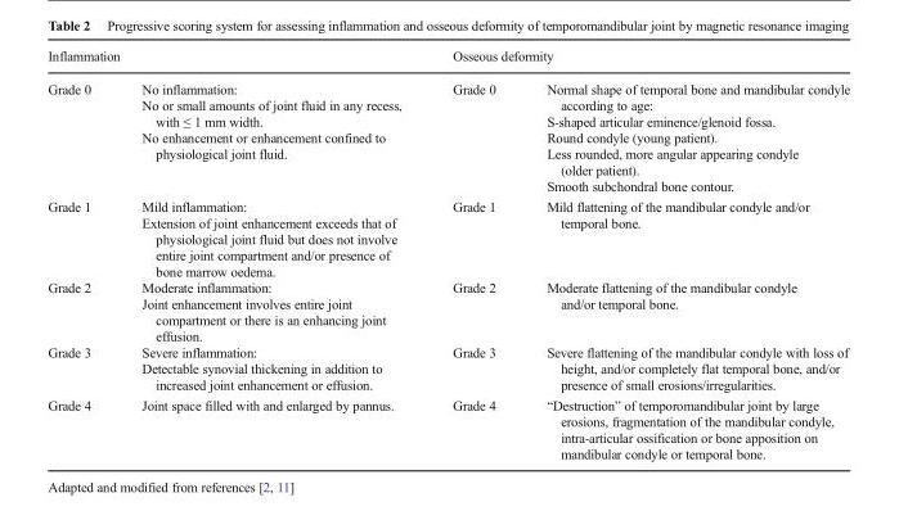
<table><thead><tr><td colspan="2">Inflammation</td><td colspan="2">Osseous deformity</td></tr><tr><td>Grade 0</td><td>No inflammation: No or small amounts of joint fluid in any recess, with ≤ 1 mm width. No enhancement or enhancement confined to physiological joint fluid.</td><td>Grade 0</td><td>Normal shape of temporal bone and mandibular condyle according to age: S-shaped articular eminence/glenoid fossa. Round condyle (young patient). Less rounded, more angular appearing condyle (older patient). Smooth subchondral bone contour.</td></tr></thead><tbody><tr><td>Grade 1</td><td>Mild inflammation: Extension of joint enhancement exceeds that of physiological joint fluid but does not involve entire joint compartment and/or presence of bone marrow oedema.</td><td>Grade 1</td><td>Mild flattening of the mandibular condyle and/or temporal bone.</td></tr><tr><td>Grade 2</td><td>Moderate inflammation: Joint enhancement involves entire joint compartment or there is an enhancing joint effusion.</td><td>Grade 2</td><td>Moderate flattening of the mandibular condyle and/or temporal bone.</td></tr><tr><td>Grade 3</td><td>Severe inflammation: Detectable synovial thickening in addition to increased joint enhancement or effusion.</td><td>Grade 3</td><td>Severe flattening of the mandibular condyle with loss of height, and/or completely flat temporal bone, and/or presence of small erosions/irregularities.</td></tr><tr><td>Grade 4</td><td>Joint space filled with and enlarged by pannus.</td><td>Grade 4</td><td>“Destruction” of temporomandibular joint by large erosions, fragmentation of the mandibular condyle, intra-articular ossification or bone apposition on mandibular condyle or temporal bone.</td></tr></tbody></table>